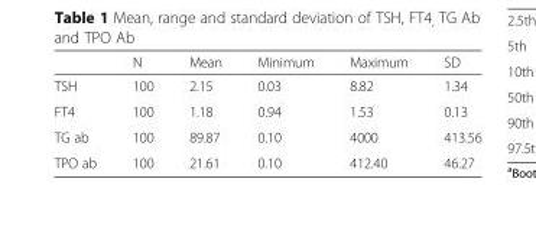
<table><thead><tr><td></td><td>N</td><td>Mean</td><td>Minimum</td><td>Maximum</td><td>SD</td></tr></thead><tbody><tr><td>TSH</td><td>100</td><td>2.15</td><td>0.03</td><td>8.82</td><td>1.34</td></tr><tr><td>FT4</td><td>100</td><td>1.18</td><td>0.94</td><td>1.53</td><td>0.13</td></tr><tr><td>TG ab</td><td>100</td><td>89.87</td><td>0.10</td><td>4000</td><td>413.56</td></tr><tr><td>TPO ab</td><td>100</td><td>21.61</td><td>0.10</td><td>412.40</td><td>46.27</td></tr></tbody></table>